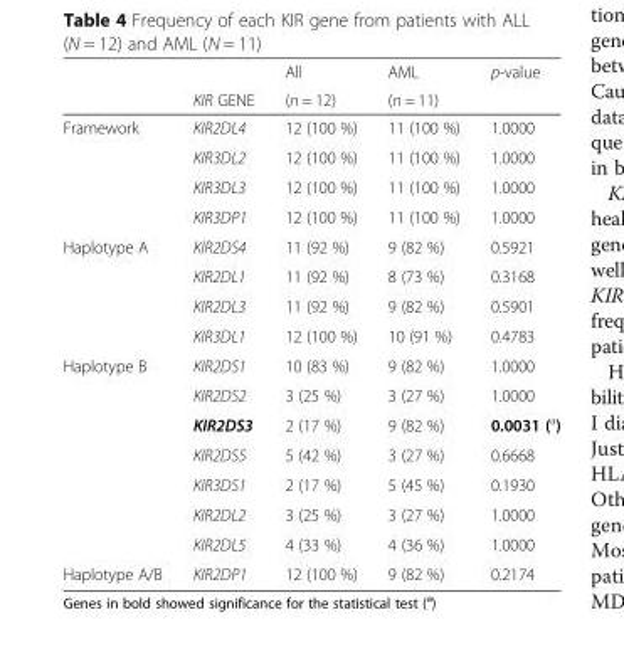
<table><thead><tr><td rowspan="2"></td><td rowspan="2">KIR GENE</td><td rowspan="2">All (n = 12)</td><td rowspan="2">AML (n = 11)</td><td rowspan="2">p-value</td></tr><tr></tr></thead><tbody><tr><td rowspan="4">Framework</td><td>KIR2DL4</td><td>12 (100 %)</td><td>11 (100 %)</td><td>1.0000</td></tr><tr><td>KIR3DL2</td><td>12 (100 %)</td><td>11 (100 %)</td><td>1.0000</td></tr><tr><td>KIR3DL3</td><td>12 (100 %)</td><td>11 (100 %)</td><td>1.0000</td></tr><tr><td>KIR3DP1</td><td>12 (100 %)</td><td>11 (100 %)</td><td>1.0000</td></tr><tr><td rowspan="4">Haplotype A</td><td>KIR2DS4</td><td>11 (92 %)</td><td>9 (82 %)</td><td>0.5921</td></tr><tr><td>KIR2DL1</td><td>11 (92 %)</td><td>8 (73 %)</td><td>0.3168</td></tr><tr><td>KIR2DL3</td><td>11 (92 %)</td><td>9 (82 %)</td><td>0.5901</td></tr><tr><td>KIR3DL1</td><td>12 (100 %)</td><td>10 (91 %)</td><td>0.4783</td></tr><tr><td rowspan="7">Haplotype B</td><td>KIR2DS1</td><td>10 (83 %)</td><td>9 (82 %)</td><td>1.0000</td></tr><tr><td>KIR2DS2</td><td>3 (25 %)</td><td>3 (27 %)</td><td>1.0000</td></tr><tr><td>KIR2DS3</td><td>2 (17 %)</td><td>9 (82 %)</td><td>0.0031 (<sup>a</sup>)</td></tr><tr><td>KIR2DS5</td><td>5 (42 %)</td><td>3 (27 %)</td><td>0.6668</td></tr><tr><td>KIR3DS1</td><td>2 (17 %)</td><td>5 (45 %)</td><td>0.1930</td></tr><tr><td>KIR2DL2</td><td>3 (25 %)</td><td>3 (27 %)</td><td>1.0000</td></tr><tr><td>KIR2DL5</td><td>4 (33 %)</td><td>4 (36 %)</td><td>1.0000</td></tr><tr><td>Haplotype A/B</td><td>KIR2DP1</td><td>12 (100 %)</td><td>9 (82 %)</td><td>0.2174</td></tr></tbody></table>